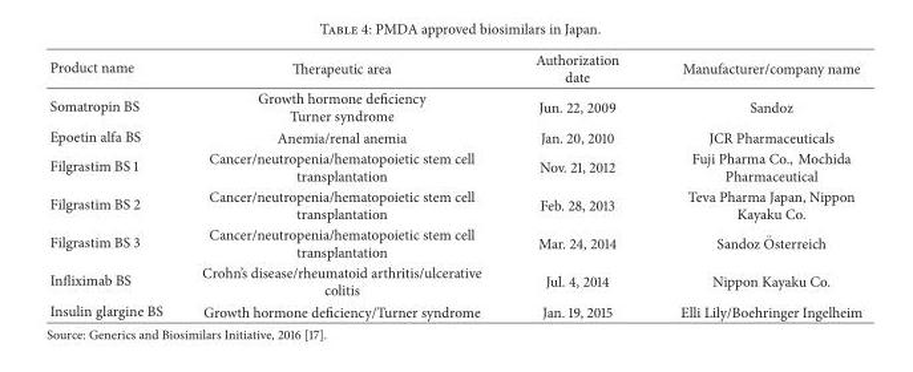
<table><thead><tr><td>Product name</td><td>Therapeutic area</td><td>Authorization date</td><td>Manufacturer/company name</td></tr></thead><tbody><tr><td>Somatropin BS</td><td>Growth hormone deficiency Turner syndrome</td><td>Jun. 22, 2009</td><td>Sandoz</td></tr><tr><td>Epoetin alfa BS</td><td>Anemia/renal anemia</td><td>Jan. 20, 2010</td><td>JCR Pharmaceuticals</td></tr><tr><td>Filgrastim BS 1</td><td>Cancer/neutropenia/hematopoietic stem cell transplantation</td><td>Nov. 21, 2012</td><td>Fuji Pharma Co., Mochida Pharmaceutical</td></tr><tr><td>Filgrastim BS 2</td><td>Cancer/neutropenia/hematopoietic stem cell transplantation</td><td>Feb. 28, 2013</td><td>Teva Pharma Japan, Nippon Kayaku Co.</td></tr><tr><td>Filgrastim BS 3</td><td>Cancer/neutropenia/hematopoietic stem cell transplantation</td><td>Mar. 24, 2014</td><td>Sandoz ¨Osterreich</td></tr><tr><td>Infliximab BS</td><td>Crohn’s disease/rheumatoid arthritis/ulcerative colitis</td><td>Jul. 4, 2014</td><td>Nippon Kayaku Co.</td></tr><tr><td>Insulin glargine BS</td><td>Growth hormone deficiency/Turner syndrome</td><td>Jan. 19, 2015</td><td>Elli Lily/Boehringer Ingelheim</td></tr></tbody></table>